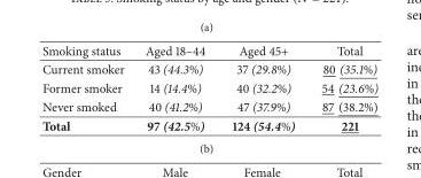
<table><thead><tr><td>Smoking status</td><td>Aged 18–44</td><td>Aged 45+</td><td>Total</td></tr></thead><tbody><tr><td>Current smoker</td><td>43 (44.3%)</td><td>37 (29.8%)</td><td>80 (35.1%)</td></tr><tr><td>Former smoker</td><td>14 (14.4%)</td><td>40 (32.2%)</td><td>54 (23.6%)</td></tr><tr><td>Never smoked</td><td>40 (41.2%)</td><td>47 (37.9%)</td><td>87 (38.2%)</td></tr><tr><td>Total</td><td>97 (42.5%)</td><td>124 (54.4%)</td><td>221</td></tr></tbody></table>